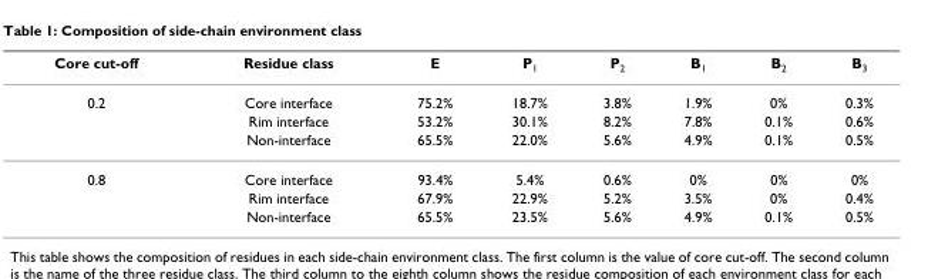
<table><thead><tr><td>Core cut-off</td><td>Residue class</td><td>E</td><td>P<sub>1</sub></td><td>P<sub>2</sub></td><td>B<sub>1</sub></td><td>B<sub>2</sub></td><td>B<sub>3</sub></td></tr></thead><tbody><tr><td rowspan="3">0.2</td><td>Core interface</td><td>75.2%</td><td>18.7%</td><td>3.8%</td><td>1.9%</td><td>0%</td><td>0.3%</td></tr><tr><td>Rim interface</td><td>53.2%</td><td>30.1%</td><td>8.2%</td><td>7.8%</td><td>0.1%</td><td>0.6%</td></tr><tr><td>Non-interface</td><td>65.5%</td><td>22.0%</td><td>5.6%</td><td>4.9%</td><td>0.1%</td><td>0.5%</td></tr><tr><td rowspan="3">0.8</td><td>Core interface</td><td>93.4%</td><td>5.4%</td><td>0.6%</td><td>0%</td><td>0%</td><td>0%</td></tr><tr><td>Rim interface</td><td>67.9%</td><td>22.9%</td><td>5.2%</td><td>3.5%</td><td>0%</td><td>0.4%</td></tr><tr><td>Non-interface</td><td>65.5%</td><td>23.5%</td><td>5.6%</td><td>4.9%</td><td>0.1%</td><td>0.5%</td></tr></tbody></table>